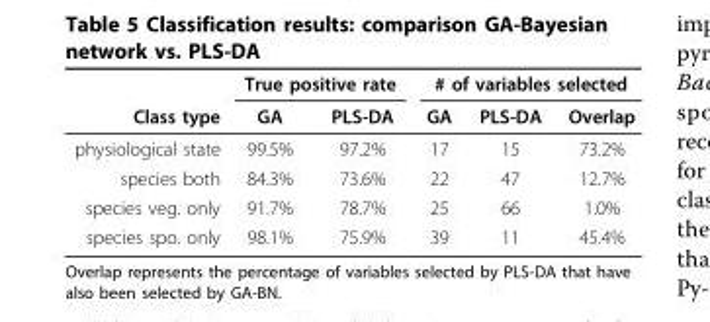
<table><thead><tr><td rowspan="2">Class type</td><td colspan="2">True positive rate</td><td colspan="3"># of variables selected</td></tr><tr><td>GA</td><td>PLS-DA</td><td>GA</td><td>PLS-DA</td><td>Overlap</td></tr></thead><tbody><tr><td>physiological state</td><td>99.5%</td><td>97.2%</td><td>17</td><td>15</td><td>73.2%</td></tr><tr><td>species both</td><td>84.3%</td><td>73.6%</td><td>22</td><td>47</td><td>12.7%</td></tr><tr><td>species veg. only</td><td>91.7%</td><td>78.7%</td><td>25</td><td>66</td><td>1.0%</td></tr><tr><td>species spo. only</td><td>98.1%</td><td>75.9%</td><td>39</td><td>11</td><td>45.4%</td></tr></tbody></table>